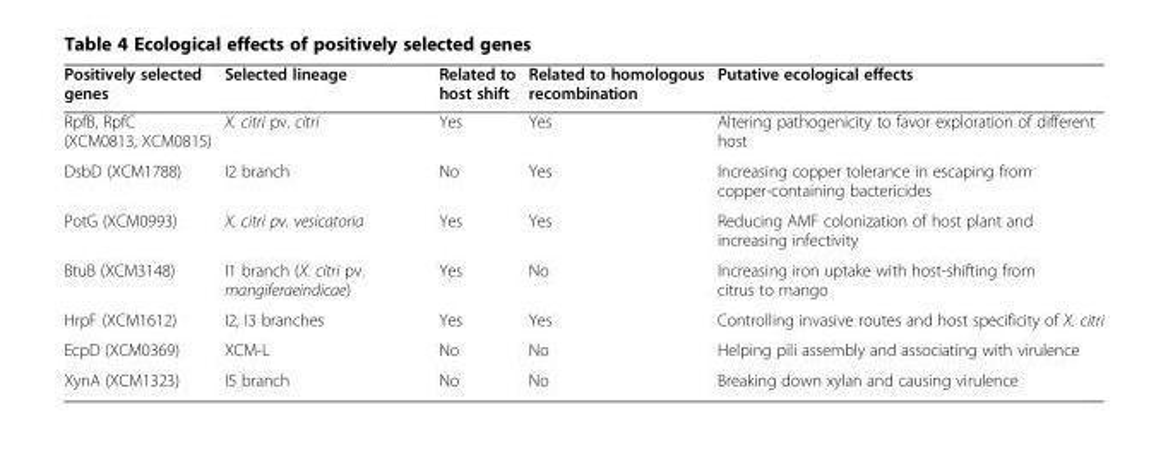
<table><thead><tr><td>Positively selected genes</td><td>Selected lineage</td><td>Related to host shift</td><td>Related to homologous recombination</td><td>Putative ecological effects</td></tr></thead><tbody><tr><td>RpfB, RpfC (XCM0813, XCM0815)</td><td>X. citri pv. citri</td><td>Yes</td><td>Yes</td><td>Altering pathogenicity to favor exploration of different host</td></tr><tr><td>DsbD (XCM1788)</td><td>I2 branch</td><td>No</td><td>Yes</td><td>Increasing copper tolerance in escaping from copper-containing bactericides</td></tr><tr><td>PotG (XCM0993)</td><td>X. citri pv. vesicatoria</td><td>Yes</td><td>Yes</td><td>Reducing AMF colonization of host plant and increasing infectivity</td></tr><tr><td>BtuB (XCM3148)</td><td>I1 branch (X. citri pv. mangiferaeindicae)</td><td>Yes</td><td>No</td><td>Increasing iron uptake with host-shifting from citrus to mango</td></tr><tr><td>HrpF (XCM1612)</td><td>I2, I3 branches</td><td>Yes</td><td>Yes</td><td>Controlling invasive routes and host specificity of X. citri</td></tr><tr><td>EcpD (XCM0369)</td><td>XCM-L</td><td>No</td><td>No</td><td>Helping pili assembly and associating with virulence</td></tr><tr><td>XynA (XCM1323)</td><td>I5 branch</td><td>No</td><td>No</td><td>Breaking down xylan and causing virulence</td></tr></tbody></table>